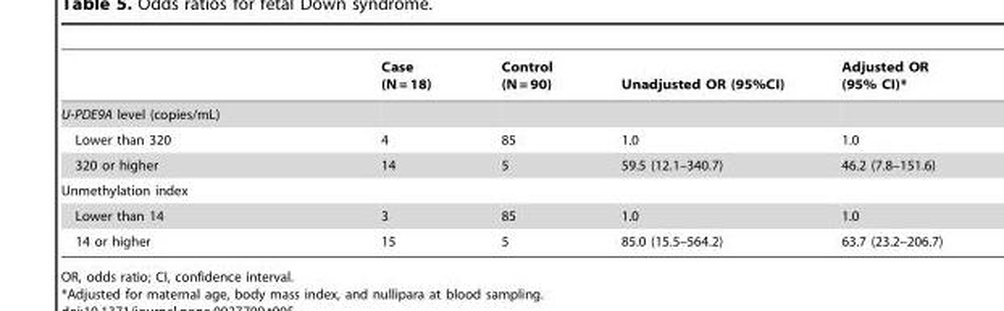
<table><thead><tr><td></td><td>Case (N = 18)</td><td>Control (N = 90)</td><td>Unadjusted OR (95%CI)</td><td>Adjusted OR (95% CI)*</td></tr></thead><tbody><tr><td colspan="5">U-PDE9A level (copies/mL)</td></tr><tr><td>Lower than 320</td><td>4</td><td>85</td><td>1.0</td><td>1.0</td></tr><tr><td>320 or higher</td><td>14</td><td>5</td><td>59.5 (12.1–340.7)</td><td>46.2 (7.8–151.6)</td></tr><tr><td colspan="5">Unmethylation index</td></tr><tr><td>Lower than 14</td><td>3</td><td>85</td><td>1.0</td><td>1.0</td></tr><tr><td>14 or higher</td><td>15</td><td>5</td><td>85.0 (15.5–564.2)</td><td>63.7 (23.2–206.7)</td></tr></tbody></table>